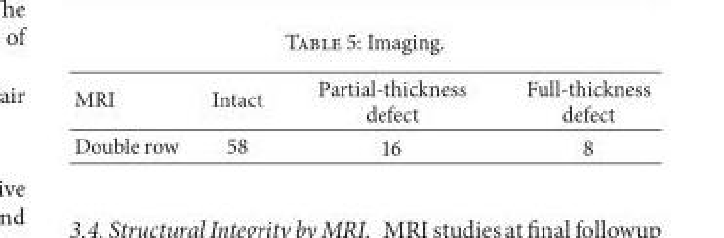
<table><thead><tr><td>MRI</td><td>Intact</td><td>Partial-thickness defect</td><td>Full-thickness defect</td></tr></thead><tbody><tr><td>Double row</td><td>58</td><td>16</td><td>8</td></tr></tbody></table>